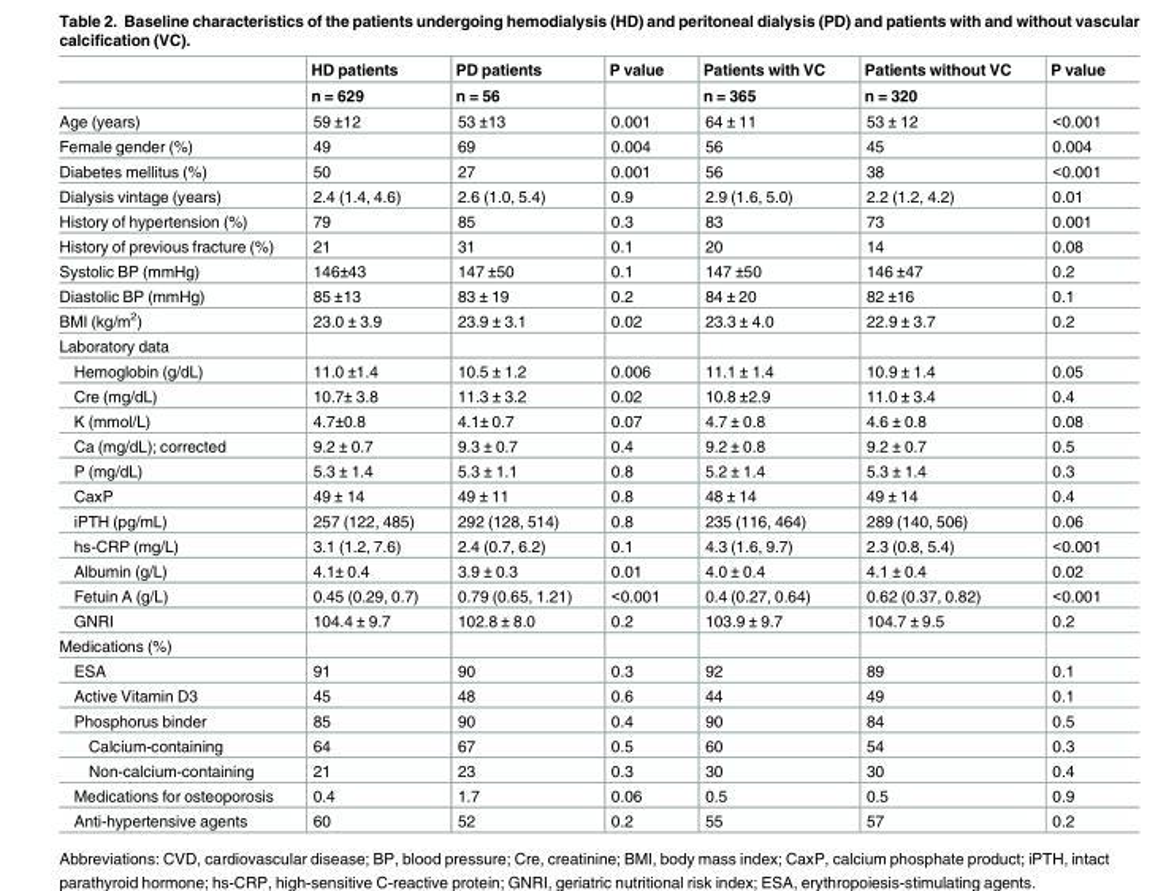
<table><thead><tr><td rowspan="2"></td><td rowspan="2">HD patients n = 629</td><td rowspan="2">PD patients n = 56</td><td rowspan="2">P value</td><td rowspan="2">Patients with VC n = 365</td><td rowspan="2">Patients without VC n = 320</td><td rowspan="2">P value</td></tr><tr></tr></thead><tbody><tr><td>Age (years)</td><td>59 ±12</td><td>53 ±13</td><td>0.001</td><td>64 ± 11</td><td>53 ± 12</td><td>&lt;0.001</td></tr><tr><td>Female gender (%)</td><td>49</td><td>69</td><td>0.004</td><td>56</td><td>45</td><td>0.004</td></tr><tr><td>Diabetes mellitus (%)</td><td>50</td><td>27</td><td>0.001</td><td>56</td><td>38</td><td>&lt;0.001</td></tr><tr><td>Dialysis vintage (years)</td><td>2.4 (1.4, 4.6)</td><td>2.6 (1.0, 5.4)</td><td>0.9</td><td>2.9 (1.6, 5.0)</td><td>2.2 (1.2, 4.2)</td><td>0.01</td></tr><tr><td>History of hypertension (%)</td><td>79</td><td>85</td><td>0.3</td><td>83</td><td>73</td><td>0.001</td></tr><tr><td>History of previous fracture (%)</td><td>21</td><td>31</td><td>0.1</td><td>20</td><td>14</td><td>0.08</td></tr><tr><td>Systolic BP (mmHg)</td><td>146±43</td><td>147 ±50</td><td>0.1</td><td>147 ±50</td><td>146 ±47</td><td>0.2</td></tr><tr><td>Diastolic BP (mmHg)</td><td>85 ±13</td><td>83 ± 19</td><td>0.2</td><td>84 ± 20</td><td>82 ±16</td><td>0.1</td></tr><tr><td>BMI (kg/m<sup>2</sup>)</td><td>23.0 ± 3.9</td><td>23.9 ± 3.1</td><td>0.02</td><td>23.3 ± 4.0</td><td>22.9 ± 3.7</td><td>0.2</td></tr><tr><td colspan="7">Laboratory data</td></tr><tr><td>Hemoglobin (g/dL)</td><td>11.0 ±1.4</td><td>10.5 ± 1.2</td><td>0.006</td><td>11.1 ± 1.4</td><td>10.9 ± 1.4</td><td>0.05</td></tr><tr><td>Cre (mg/dL)</td><td>10.7± 3.8</td><td>11.3 ± 3.2</td><td>0.02</td><td>10.8 ±2.9</td><td>11.0 ± 3.4</td><td>0.4</td></tr><tr><td>K (mmol/L)</td><td>4.7±0.8</td><td>4.1± 0.7</td><td>0.07</td><td>4.7 ± 0.8</td><td>4.6 ± 0.8</td><td>0.08</td></tr><tr><td>Ca (mg/dL); corrected</td><td>9.2 ± 0.7</td><td>9.3 ± 0.7</td><td>0.4</td><td>9.2 ± 0.8</td><td>9.2 ± 0.7</td><td>0.5</td></tr><tr><td>P (mg/dL)</td><td>5.3 ± 1.4</td><td>5.3 ± 1.1</td><td>0.8</td><td>5.2 ± 1.4</td><td>5.3 ± 1.4</td><td>0.3</td></tr><tr><td>CaxP</td><td>49 ± 14</td><td>49 ± 11</td><td>0.8</td><td>48 ± 14</td><td>49 ± 14</td><td>0.4</td></tr><tr><td>iPTH (pg/mL)</td><td>257 (122, 485)</td><td>292 (128, 514)</td><td>0.8</td><td>235 (116, 464)</td><td>289 (140, 506)</td><td>0.06</td></tr><tr><td>hs-CRP (mg/L)</td><td>3.1 (1.2, 7.6)</td><td>2.4 (0.7, 6.2)</td><td>0.1</td><td>4.3 (1.6, 9.7)</td><td>2.3 (0.8, 5.4)</td><td>&lt;0.001</td></tr><tr><td>Albumin (g/L)</td><td>4.1± 0.4</td><td>3.9 ± 0.3</td><td>0.01</td><td>4.0 ± 0.4</td><td>4.1 ± 0.4</td><td>0.02</td></tr><tr><td>Fetuin A (g/L)</td><td>0.45 (0.29, 0.7)</td><td>0.79 (0.65, 1.21)</td><td>&lt;0.001</td><td>0.4 (0.27, 0.64)</td><td>0.62 (0.37, 0.82)</td><td>&lt;0.001</td></tr><tr><td>GNRI</td><td>104.4 ± 9.7</td><td>102.8 ± 8.0</td><td>0.2</td><td>103.9 ± 9.7</td><td>104.7 ± 9.5</td><td>0.2</td></tr><tr><td colspan="7">Medications (%)</td></tr><tr><td>ESA</td><td>91</td><td>90</td><td>0.3</td><td>92</td><td>89</td><td>0.1</td></tr><tr><td>Active Vitamin D3</td><td>45</td><td>48</td><td>0.6</td><td>44</td><td>49</td><td>0.1</td></tr><tr><td>Phosphorus binder</td><td>85</td><td>90</td><td>0.4</td><td>90</td><td>84</td><td>0.5</td></tr><tr><td>Calcium-containing</td><td>64</td><td>67</td><td>0.5</td><td>60</td><td>54</td><td>0.3</td></tr><tr><td>Non-calcium-containing</td><td>21</td><td>23</td><td>0.3</td><td>30</td><td>30</td><td>0.4</td></tr><tr><td>Medications for osteoporosis</td><td>0.4</td><td>1.7</td><td>0.06</td><td>0.5</td><td>0.5</td><td>0.9</td></tr><tr><td>Anti-hypertensive agents</td><td>60</td><td>52</td><td>0.2</td><td>55</td><td>57</td><td>0.2</td></tr></tbody></table>